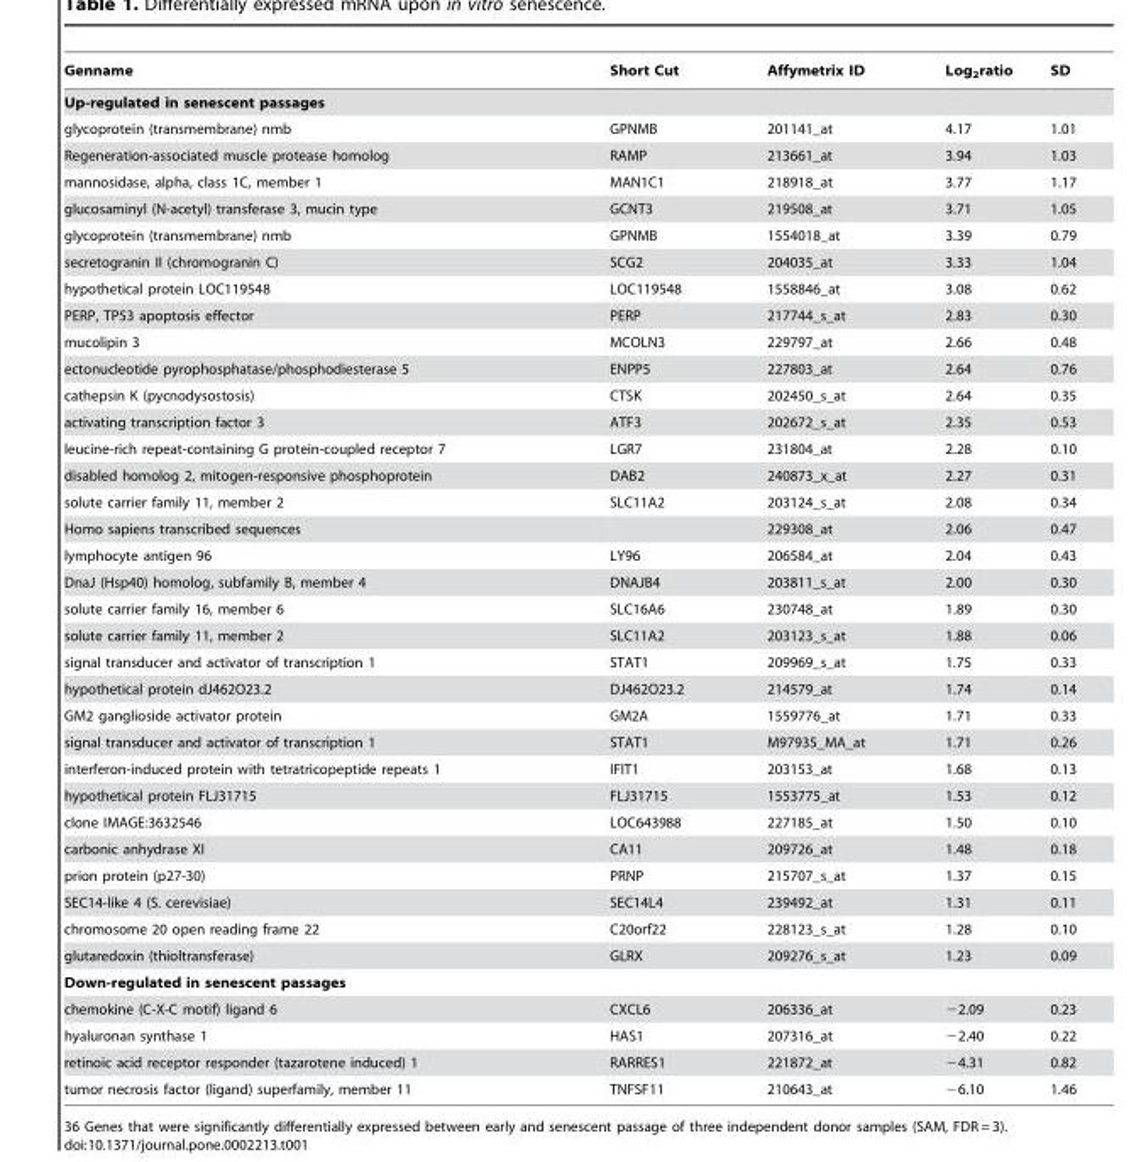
<table><thead><tr><td>Genname</td><td>Short Cut</td><td>Affymetrix ID</td><td>Log<sub>2</sub>ratio</td><td>SD</td></tr></thead><tbody><tr><td colspan="5">Up-regulated in senescent passages</td></tr><tr><td>glycoprotein (transmembrane) nmb</td><td>GPNMB</td><td>201141_at</td><td>4.17</td><td>1.01</td></tr><tr><td>Regeneration-associated muscle protease homolog</td><td>RAMP</td><td>213661_at</td><td>3.94</td><td>1.03</td></tr><tr><td>mannosidase, alpha, class 1C, member 1</td><td>MAN1C1</td><td>218918_at</td><td>3.77</td><td>1.17</td></tr><tr><td>glucosaminyl (N-acetyl) transferase 3, mucin type</td><td>GCNT3</td><td>219508_at</td><td>3.71</td><td>1.05</td></tr><tr><td>glycoprotein (transmembrane) nmb</td><td>GPNMB</td><td>1554018_at</td><td>3.39</td><td>0.79</td></tr><tr><td>secretogranin II (chromogranin C)</td><td>SCG2</td><td>204035_at</td><td>3.33</td><td>1.04</td></tr><tr><td>hypothetical protein LOC119548</td><td>LOC119548</td><td>1558846_at</td><td>3.08</td><td>0.62</td></tr><tr><td>PERP, TP53 apoptosis effector</td><td>PERP</td><td>217744_s_at</td><td>2.83</td><td>0.30</td></tr><tr><td>mucolipin 3</td><td>MCOLN3</td><td>229797_at</td><td>2.66</td><td>0.48</td></tr><tr><td>ectonucleotide pyrophosphatase/phosphodiesterase 5</td><td>ENPP5</td><td>227803_at</td><td>2.64</td><td>0.76</td></tr><tr><td>cathepsin K (pycnodysostosis)</td><td>CTSK</td><td>202450_s_at</td><td>2.64</td><td>0.35</td></tr><tr><td>activating transcription factor 3</td><td>ATF3</td><td>202672_s_at</td><td>2.35</td><td>0.53</td></tr><tr><td>leucine-rich repeat-containing G protein-coupled receptor 7</td><td>LGR7</td><td>231804_at</td><td>2.28</td><td>0.10</td></tr><tr><td>disabled homolog 2, mitogen-responsive phosphoprotein</td><td>DAB2</td><td>240873_x_at</td><td>2.27</td><td>0.31</td></tr><tr><td>solute carrier family 11, member 2</td><td>SLC11A2</td><td>203124_s_at</td><td>2.08</td><td>0.34</td></tr><tr><td>Homo sapiens transcribed sequences</td><td></td><td>229308_at</td><td>2.06</td><td>0.47</td></tr><tr><td>lymphocyte antigen 96</td><td>LY96</td><td>206584_at</td><td>2.04</td><td>0.43</td></tr><tr><td>DnaJ (Hsp40) homolog, subfamily B, member 4</td><td>DNAJB4</td><td>203811_s_at</td><td>2.00</td><td>0.30</td></tr><tr><td>solute carrier family 16, member 6</td><td>SLC16A6</td><td>230748_at</td><td>1.89</td><td>0.30</td></tr><tr><td>solute carrier family 11, member 2</td><td>SLC11A2</td><td>203123_s_at</td><td>1.88</td><td>0.06</td></tr><tr><td>signal transducer and activator of transcription 1</td><td>STAT1</td><td>209969_s_at</td><td>1.75</td><td>0.33</td></tr><tr><td>hypothetical protein dJ462O23.2</td><td>DJ462O23.2</td><td>214579_at</td><td>1.74</td><td>0.14</td></tr><tr><td>GM2 ganglioside activator protein</td><td>GM2A</td><td>1559776_at</td><td>1.71</td><td>0.33</td></tr><tr><td>signal transducer and activator of transcription 1</td><td>STAT1</td><td>M97935_MA_at</td><td>1.71</td><td>0.26</td></tr><tr><td>interferon-induced protein with tetratricopeptide repeats 1</td><td>IFIT1</td><td>203153_at</td><td>1.68</td><td>0.13</td></tr><tr><td>hypothetical protein FLJ31715</td><td>FLJ31715</td><td>1553775_at</td><td>1.53</td><td>0.12</td></tr><tr><td>clone IMAGE:3632546</td><td>LOC643988</td><td>227185_at</td><td>1.50</td><td>0.10</td></tr><tr><td>carbonic anhydrase XI</td><td>CA11</td><td>209726_at</td><td>1.48</td><td>0.18</td></tr><tr><td>prion protein (p27-30)</td><td>PRNP</td><td>215707_s_at</td><td>1.37</td><td>0.15</td></tr><tr><td>SEC14-like 4 (S. cerevisiae)</td><td>SEC14L4</td><td>239492_at</td><td>1.31</td><td>0.11</td></tr><tr><td>chromosome 20 open reading frame 22</td><td>C20orf22</td><td>228123_s_at</td><td>1.28</td><td>0.10</td></tr><tr><td>glutaredoxin (thioltransferase)</td><td>GLRX</td><td>209276_s_at</td><td>1.23</td><td>0.09</td></tr><tr><td colspan="5">Down-regulated in senescent passages</td></tr><tr><td>chemokine (C-X-C motif) ligand 6</td><td>CXCL6</td><td>206336_at</td><td>−2.09</td><td>0.23</td></tr><tr><td>hyaluronan synthase 1</td><td>HAS1</td><td>207316_at</td><td>−2.40</td><td>0.22</td></tr><tr><td>retinoic acid receptor responder (tazarotene induced) 1</td><td>RARRES1</td><td>221872_at</td><td>−4.31</td><td>0.82</td></tr><tr><td>tumor necrosis factor (ligand) superfamily, member 11</td><td>TNFSF11</td><td>210643_at</td><td>−6.10</td><td>1.46</td></tr></tbody></table>